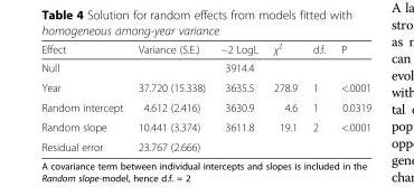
<table><thead><tr><td>Effect</td><td>Variance (S.E.)</td><td>−2 LogL</td><td>χ<sup>2</sup></td><td>d.f.</td><td>P</td></tr></thead><tbody><tr><td>Null</td><td></td><td>3914.4</td><td></td><td></td><td></td></tr><tr><td>Year</td><td>37.720 (15.338)</td><td>3635.5</td><td>278.9</td><td>1</td><td>&lt;.0001</td></tr><tr><td>Random intercept</td><td>4.612 (2.416)</td><td>3630.9</td><td>4.6</td><td>1</td><td>0.0319</td></tr><tr><td>Random slope</td><td>10.441 (3.374)</td><td>3611.8</td><td>19.1</td><td>2</td><td>&lt;.0001</td></tr><tr><td>Residual error</td><td>23.767 (2.666)</td><td></td><td></td><td></td><td></td></tr></tbody></table>